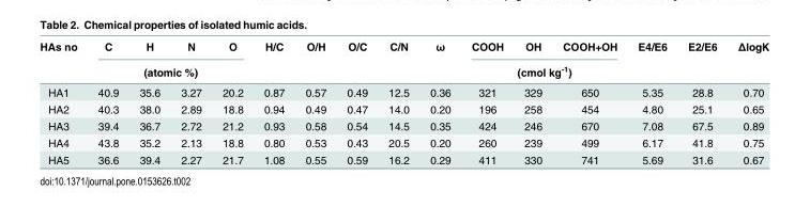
<table><thead><tr><td rowspan="2">HAs no</td><td>C</td><td>H</td><td>N</td><td>O</td><td rowspan="2">H/C</td><td rowspan="2">O/H</td><td rowspan="2">O/C</td><td rowspan="2">C/N</td><td rowspan="2">ω</td><td>COOH</td><td>OH</td><td>COOH+OH</td><td rowspan="2">E4/E6</td><td rowspan="2">E2/E6</td><td rowspan="2">ΔlogK</td></tr><tr><td colspan="4">(atomic %)</td><td colspan="3">(cmol kg<sup>-1</sup>)</td></tr></thead><tbody><tr><td>HA1</td><td>40.9</td><td>35.6</td><td>3.27</td><td>20.2</td><td>0.87</td><td>0.57</td><td>0.49</td><td>12.5</td><td>0.36</td><td>321</td><td>329</td><td>650</td><td>5.35</td><td>28.8</td><td>0.70</td></tr><tr><td>HA2</td><td>40.3</td><td>38.0</td><td>2.89</td><td>18.8</td><td>0.94</td><td>0.49</td><td>0.47</td><td>14.0</td><td>0.20</td><td>196</td><td>258</td><td>454</td><td>4.80</td><td>25.1</td><td>0.65</td></tr><tr><td>HA3</td><td>39.4</td><td>36.7</td><td>2.72</td><td>21.2</td><td>0.93</td><td>0.58</td><td>0.54</td><td>14.5</td><td>0.35</td><td>424</td><td>246</td><td>670</td><td>7.08</td><td>67.5</td><td>0.89</td></tr><tr><td>HA4</td><td>43.8</td><td>35.2</td><td>2.13</td><td>18.8</td><td>0.80</td><td>0.53</td><td>0.43</td><td>20.5</td><td>0.20</td><td>260</td><td>239</td><td>499</td><td>6.17</td><td>41.8</td><td>0.75</td></tr><tr><td>HA5</td><td>36.6</td><td>39.4</td><td>2.27</td><td>21.7</td><td>1.08</td><td>0.55</td><td>0.59</td><td>16.2</td><td>0.29</td><td>411</td><td>330</td><td>741</td><td>5.69</td><td>31.6</td><td>0.67</td></tr></tbody></table>